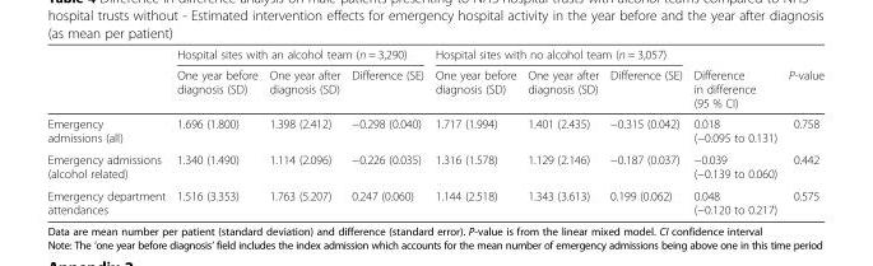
<table><thead><tr><td rowspan="2"></td><td colspan="3">Hospital sites with an alcohol team (n = 3,290)</td><td colspan="3">Hospital sites with no alcohol team (n = 3,057)</td><td rowspan="2">Difference in difference (95 % CI)</td><td rowspan="2">P-value</td></tr><tr><td>One year before diagnosis (SD)</td><td>One year after diagnosis (SD)</td><td>Difference (SE)</td><td>One year before diagnosis (SD)</td><td>One year after diagnosis (SD)</td><td>Difference (SE)</td></tr></thead><tbody><tr><td>Emergency admissions (all)</td><td>1.696 (1.800)</td><td>1.398 (2.412)</td><td>−0.298 (0.040)</td><td>1.717 (1.994)</td><td>1.401 (2.435)</td><td>−0.315 (0.042)</td><td>0.018 (−0.095 to 0.131)</td><td>0.758</td></tr><tr><td>Emergency admissions (alcohol related)</td><td>1.340 (1.490)</td><td>1.114 (2.096)</td><td>−0.226 (0.035)</td><td>1.316 (1.578)</td><td>1.129 (2.146)</td><td>−0.187 (0.037)</td><td>−0.039 (−0.139 to 0.060)</td><td>0.442</td></tr><tr><td>Emergency department attendances</td><td>1.516 (3.353)</td><td>1.763 (5.207)</td><td>0.247 (0.060)</td><td>1.144 (2.518)</td><td>1.343 (3.613)</td><td>0.199 (0.062)</td><td>0.048 (−0.120 to 0.217)</td><td>0.575</td></tr></tbody></table>